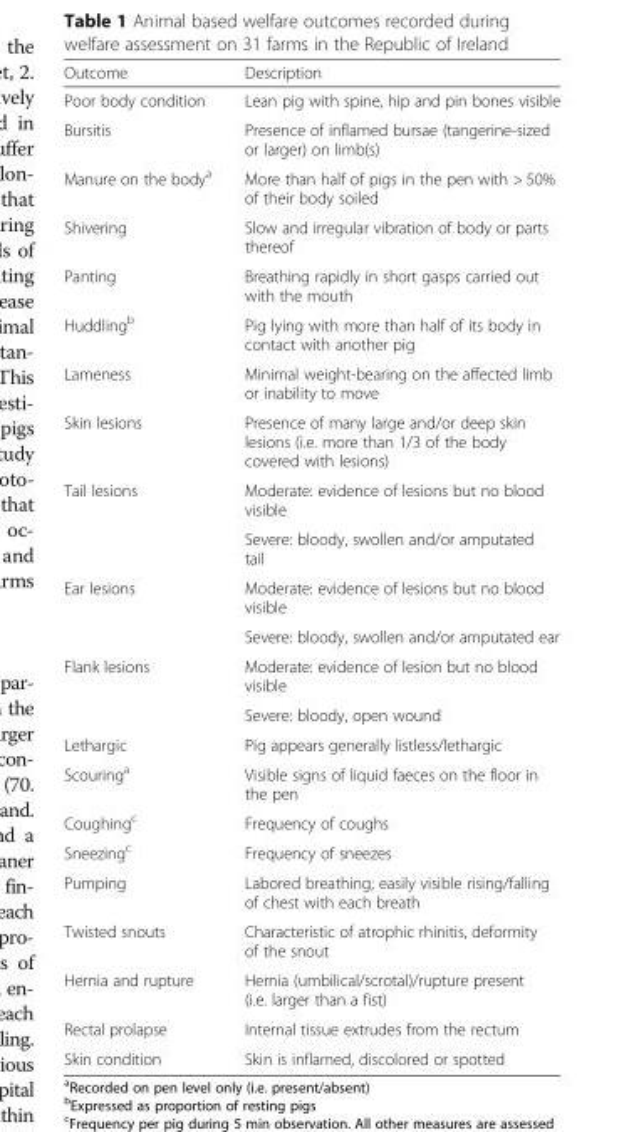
<table><thead><tr><td>Outcome</td><td>Description</td></tr></thead><tbody><tr><td>Poor body condition</td><td>Lean pig with spine, hip and pin bones visible</td></tr><tr><td>Bursitis</td><td>Presence of inflamed bursae (tangerine-sized or larger) on limb(s)</td></tr><tr><td>Manure on the body<sup>a</sup></td><td>More than half of pigs in the pen with &gt; 50% of their body soiled</td></tr><tr><td>Shivering</td><td>Slow and irregular vibration of body or parts thereof</td></tr><tr><td>Panting</td><td>Breathing rapidly in short gasps carried out with the mouth</td></tr><tr><td>Huddling<sup>b</sup></td><td>Pig lying with more than half of its body in contact with another pig</td></tr><tr><td>Lameness</td><td>Minimal weight-bearing on the affected limb or inability to move</td></tr><tr><td>Skin lesions</td><td>Presence of many large and/or deep skin lesions (i.e. more than 1/3 of the body covered with lesions)</td></tr><tr><td rowspan="2">Tail lesions</td><td>Moderate: evidence of lesions but no blood visible</td></tr><tr><td>Severe: bloody, swollen and/or amputated tail</td></tr><tr><td rowspan="2">Ear lesions</td><td>Moderate: evidence of lesions but no blood visible</td></tr><tr><td>Severe: bloody, swollen and/or amputated ear</td></tr><tr><td rowspan="2">Flank lesions</td><td>Moderate: evidence of lesion but no blood visible</td></tr><tr><td>Severe: bloody, open wound</td></tr><tr><td>Lethargic</td><td>Pig appears generally listless/lethargic</td></tr><tr><td>Scouring<sup>a</sup></td><td>Visible signs of liquid faeces on the floor in the pen</td></tr><tr><td>Coughing<sup>c</sup></td><td>Frequency of coughs</td></tr><tr><td>Sneezing<sup>c</sup></td><td>Frequency of sneezes</td></tr><tr><td>Pumping</td><td>Labored breathing; easily visible rising/falling of chest with each breath</td></tr><tr><td>Twisted snouts</td><td>Characteristic of atrophic rhinitis, deformity of the snout</td></tr><tr><td>Hernia and rupture</td><td>Hernia (umbilical/scrotal)/rupture present (i.e. larger than a fist)</td></tr><tr><td>Rectal prolapse</td><td>Internal tissue extrudes from the rectum</td></tr><tr><td>Skin condition</td><td>Skin is inflamed, discolored or spotted</td></tr></tbody></table>